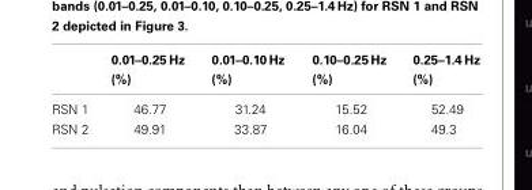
<table><thead><tr><td></td><td>0.01–0.25 Hz (%)</td><td>0.01–0.10 Hz (%)</td><td>0.10–0.25 Hz (%)</td><td>0.25–1.4 Hz (%)</td></tr></thead><tbody><tr><td>RSN 1</td><td>46.77</td><td>31.24</td><td>15.52</td><td>52.49</td></tr><tr><td>RSN 2</td><td>49.91</td><td>33.87</td><td>16.04</td><td>49.3</td></tr></tbody></table>